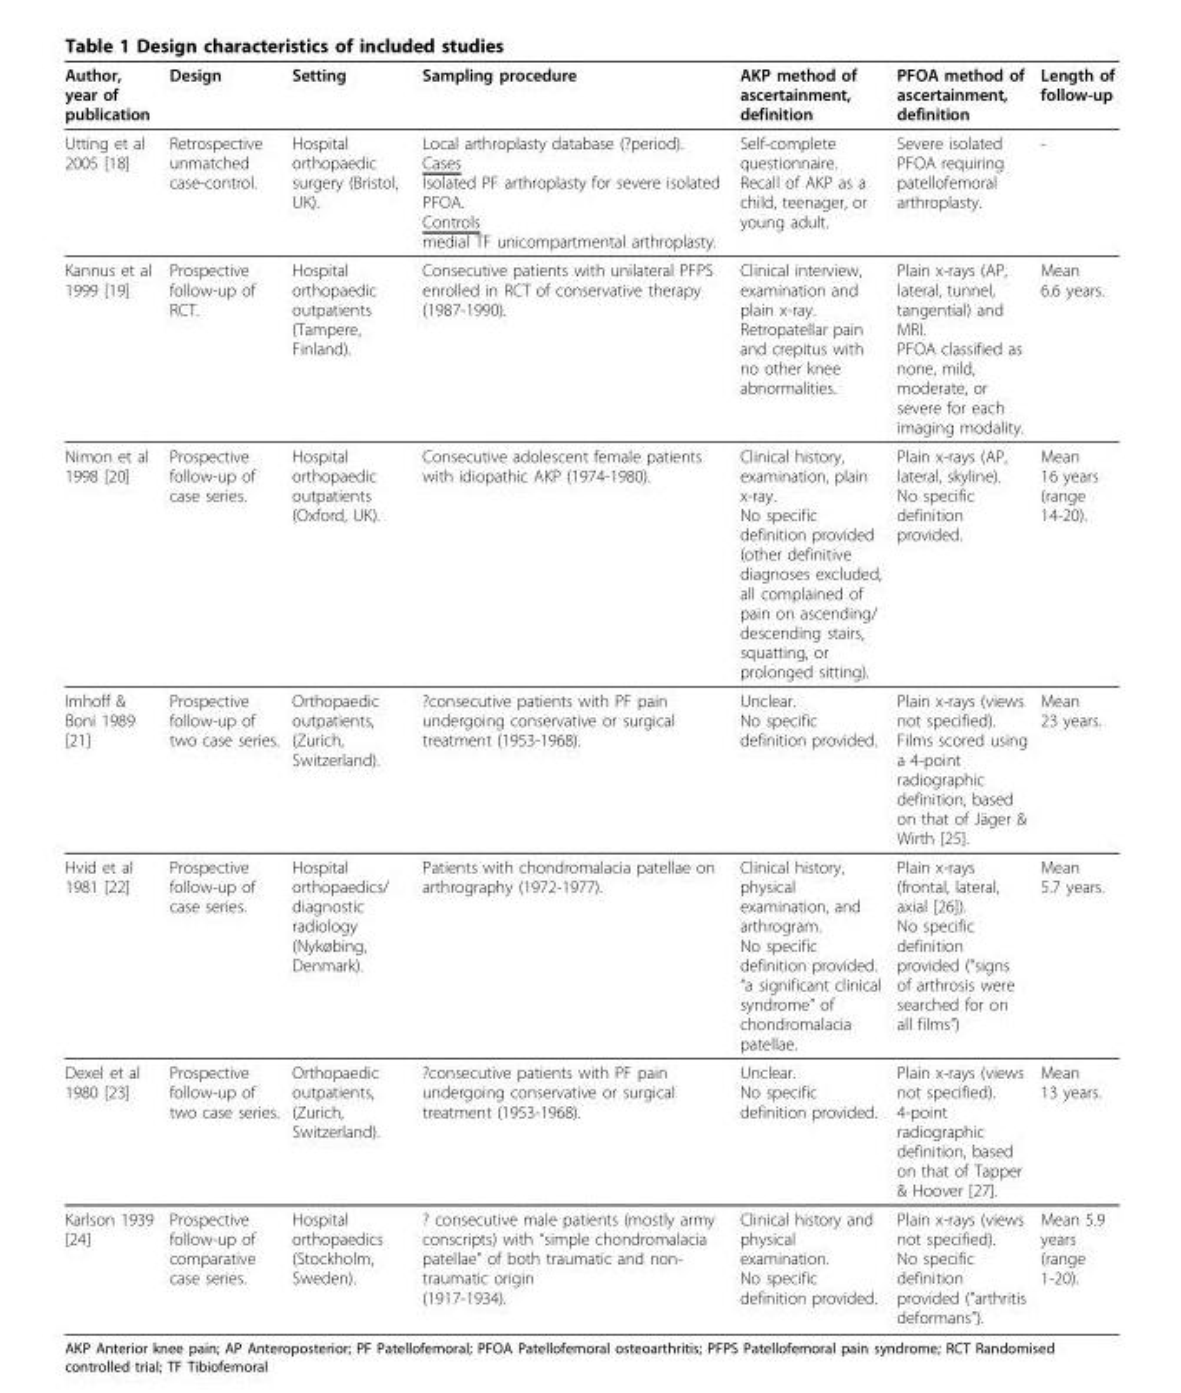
<table><thead><tr><td>Author, year of publication</td><td>Design</td><td>Setting</td><td>Sampling procedure</td><td>AKP method of ascertainment, definition</td><td>PFOA method of ascertainment, definition</td><td>Length of follow-up</td></tr></thead><tbody><tr><td>Utting et al 2005 [18]</td><td>Retrospective unmatched case-control.</td><td>Hospital orthopaedic surgery (Bristol, UK).</td><td>Local arthroplasty database (?period). Cases Isolated PF arthroplasty for severe isolated PFOA. Controls medial TF unicompartmental arthroplasty.</td><td>Self-complete questionnaire. Recall of AKP as a child, teenager, or young adult.</td><td>Severe isolated PFOA requiring patellofemoral arthroplasty.</td><td>-</td></tr><tr><td>Kannus et al 1999 [19]</td><td>Prospective follow-up of RCT.</td><td>Hospital orthopaedic outpatients (Tampere, Finland).</td><td>Consecutive patients with unilateral PFPS enrolled in RCT of conservative therapy (1987-1990).</td><td>Clinical interview, examination and plain x-ray. Retropatellar pain and crepitus with no other knee abnormalities.</td><td>Plain x-rays (AP, lateral, tunnel, tangential) and MRI. PFOA classified as none, mild, moderate, or severe for each imaging modality.</td><td>Mean 6.6 years.</td></tr><tr><td>Nimon et al 1998 [20]</td><td>Prospective follow-up of case series.</td><td>Hospital orthopaedic outpatients (Oxford, UK).</td><td>Consecutive adolescent female patients with idiopathic AKP (1974-1980).</td><td>Clinical history, examination, plain x-ray. No specific definition provided (other definitive diagnoses excluded, all complained of pain on ascending/ descending stairs, squatting, or prolonged sitting).</td><td>Plain x-rays (AP, lateral, skyline). No specific definition provided.</td><td>Mean 16 years (range 14-20).</td></tr><tr><td>Imhoff &amp; Boni 1989 [21]</td><td>Prospective follow-up of two case series.</td><td>Orthopaedic outpatients, (Zurich, Switzerland).</td><td>?consecutive patients with PF pain undergoing conservative or surgical treatment (1953-1968).</td><td>Unclear. No specific definition provided.</td><td>Plain x-rays (views not specified). Films scored using a 4-point radiographic definition, based on that of Jäger &amp; Wirth [25].</td><td>Mean 23 years.</td></tr><tr><td>Hvid et al 1981 [22]</td><td>Prospective follow-up of case series.</td><td>Hospital orthopaedics/ diagnostic radiology (Nykøbing, Denmark).</td><td>Patients with chondromalacia patellae on arthrography (1972-1977).</td><td>Clinical history, physical examination, and arthrogram. No specific definition provided. “a significant clinical syndrome” of chondromalacia patellae.</td><td>Plain x-rays (frontal, lateral, axial [26]). No specific definition provided (&quot;signs of arthrosis were searched for on all films”)</td><td>Mean 5.7 years.</td></tr><tr><td>Dexel et al 1980 [23]</td><td>Prospective follow-up of two case series.</td><td>Orthopaedic outpatients, (Zurich, Switzerland).</td><td>?consecutive patients with PF pain undergoing conservative or surgical treatment (1953-1968).</td><td>Unclear. No specific definition provided.</td><td>Plain x-rays (views not specified). 4-point radiographic definition, based on that of Tapper &amp; Hoover [27].</td><td>Mean 13 years.</td></tr><tr><td>Karlson 1939 [24]</td><td>Prospective follow-up of comparative case series.</td><td>Hospital orthopaedics (Stockholm, Sweden).</td><td>? consecutive male patients (mostly army conscripts) with “simple chondromalacia patellae” of both traumatic and non- traumatic origin (1917-1934).</td><td>Clinical history and physical examination. No specific definition provided.</td><td>Plain x-rays (views not specified). No specific definition provided (&quot;arthritis deformans”).</td><td>Mean 5.9 years (range 1-20).</td></tr></tbody></table>